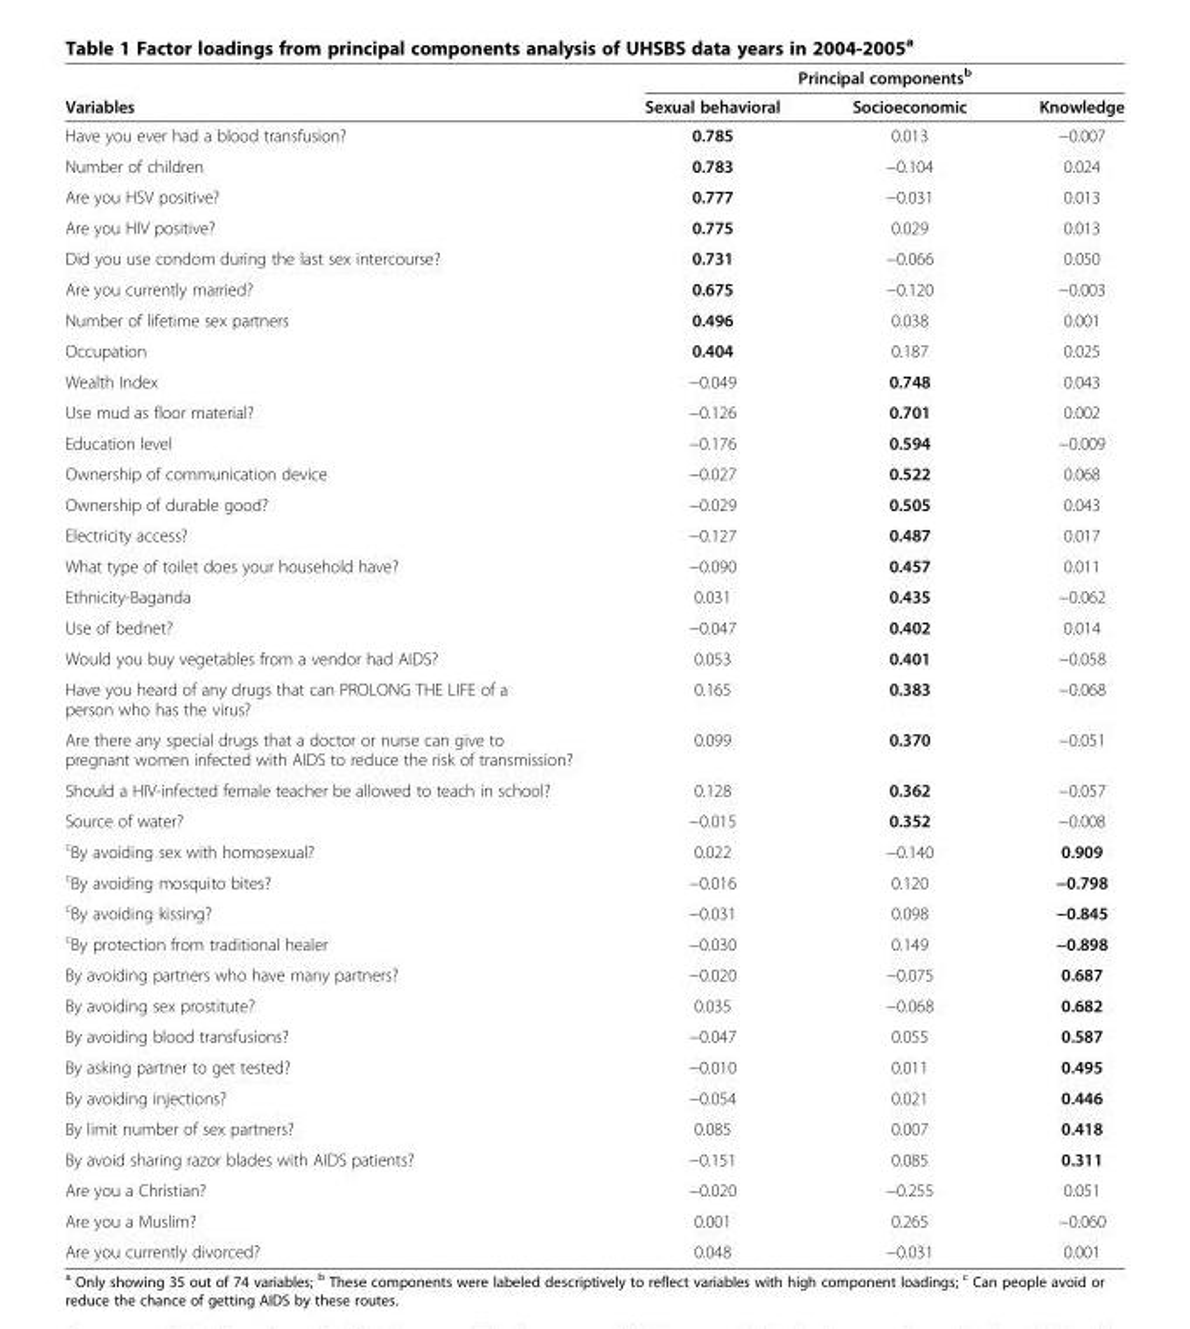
<table><thead><tr><td rowspan="2">Variables</td><td colspan="3">Principal components<sup>b</sup></td></tr><tr><td>Sexual behavioral</td><td>Socioeconomic</td><td>Knowledge</td></tr></thead><tbody><tr><td>Have you ever had a blood transfusion?</td><td>0.785</td><td>0.013</td><td>−0.007</td></tr><tr><td>Number of children</td><td>0.783</td><td>−0.104</td><td>0.024</td></tr><tr><td>Are you HSV positive?</td><td>0.777</td><td>−0.031</td><td>0.013</td></tr><tr><td>Are you HIV positive?</td><td>0.775</td><td>0.029</td><td>0.013</td></tr><tr><td>Did you use condom during the last sex intercourse?</td><td>0.731</td><td>−0.066</td><td>0.050</td></tr><tr><td>Are you currently married?</td><td>0.675</td><td>−0.120</td><td>−0.003</td></tr><tr><td>Number of lifetime sex partners</td><td>0.496</td><td>0.038</td><td>0.001</td></tr><tr><td>Occupation</td><td>0.404</td><td>0.187</td><td>0.025</td></tr><tr><td>Wealth Index</td><td>−0.049</td><td>0.748</td><td>0.043</td></tr><tr><td>Use mud as floor material?</td><td>−0.126</td><td>0.701</td><td>0.002</td></tr><tr><td>Education level</td><td>−0.176</td><td>0.594</td><td>−0.009</td></tr><tr><td>Ownership of communication device</td><td>−0.027</td><td>0.522</td><td>0.068</td></tr><tr><td>Ownership of durable good?</td><td>−0.029</td><td>0.505</td><td>0.043</td></tr><tr><td>Electricity access?</td><td>−0.127</td><td>0.487</td><td>0.017</td></tr><tr><td>What type of toilet does your household have?</td><td>−0.090</td><td>0.457</td><td>0.011</td></tr><tr><td>Ethnicity-Baganda</td><td>0.031</td><td>0.435</td><td>−0.062</td></tr><tr><td>Use of bednet?</td><td>−0.047</td><td>0.402</td><td>0.014</td></tr><tr><td>Would you buy vegetables from a vendor had AIDS?</td><td>0.053</td><td>0.401</td><td>−0.058</td></tr><tr><td>Have you heard of any drugs that can PROLONG THE LIFE of a person who has the virus?</td><td>0.165</td><td>0.383</td><td>−0.068</td></tr><tr><td>Are there any special drugs that a doctor or nurse can give to pregnant women infected with AIDS to reduce the risk of transmission?</td><td>0.099</td><td>0.370</td><td>−0.051</td></tr><tr><td>Should a HIV-infected female teacher be allowed to teach in school?</td><td>0.128</td><td>0.362</td><td>−0.057</td></tr><tr><td>Source of water?</td><td>−0.015</td><td>0.352</td><td>−0.008</td></tr><tr><td><sup>c</sup>By avoiding sex with homosexual?</td><td>0.022</td><td>−0.140</td><td>0.909</td></tr><tr><td><sup>c</sup>By avoiding mosquito bites?</td><td>−0.016</td><td>0.120</td><td>−0.798</td></tr><tr><td><sup>c</sup>By avoiding kissing?</td><td>−0.031</td><td>0.098</td><td>−0.845</td></tr><tr><td><sup>c</sup>By protection from traditional healer</td><td>−0.030</td><td>0.149</td><td>−0.898</td></tr><tr><td>By avoiding partners who have many partners?</td><td>−0.020</td><td>−0.075</td><td>0.687</td></tr><tr><td>By avoiding sex prostitute?</td><td>0.035</td><td>−0.068</td><td>0.682</td></tr><tr><td>By avoiding blood transfusions?</td><td>−0.047</td><td>0.055</td><td>0.587</td></tr><tr><td>By asking partner to get tested?</td><td>−0.010</td><td>0.011</td><td>0.495</td></tr><tr><td>By avoiding injections?</td><td>−0.054</td><td>0.021</td><td>0.446</td></tr><tr><td>By limit number of sex partners?</td><td>0.085</td><td>0.007</td><td>0.418</td></tr><tr><td>By avoid sharing razor blades with AIDS patients?</td><td>−0.151</td><td>0.085</td><td>0.311</td></tr><tr><td>Are you a Christian?</td><td>−0.020</td><td>−0.255</td><td>0.051</td></tr><tr><td>Are you a Muslim?</td><td>0.001</td><td>0.265</td><td>−0.060</td></tr><tr><td>Are you currently divorced?</td><td>0.048</td><td>−0.031</td><td>0.001</td></tr></tbody></table>